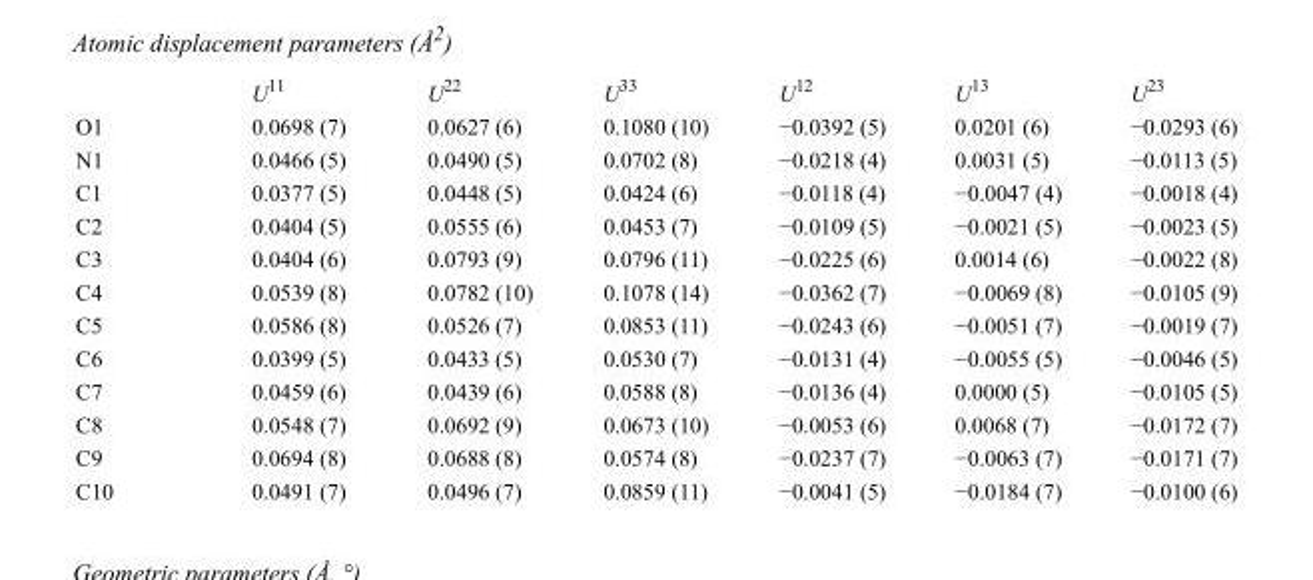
<table><thead><tr><td></td><td>U<sup>11</sup></td><td>U<sup>22</sup></td><td>U<sup>33</sup></td><td>U<sup>12</sup></td><td>U<sup>13</sup></td><td>U<sup>23</sup></td></tr></thead><tbody><tr><td>O1</td><td>0.0698 (7)</td><td>0.0627 (6)</td><td>0.1080 (10)</td><td>−0.0392 (5)</td><td>0.0201 (6)</td><td>−0.0293 (6)</td></tr><tr><td>N1</td><td>0.0466 (5)</td><td>0.0490 (5)</td><td>0.0702 (8)</td><td>−0.0218 (4)</td><td>0.0031 (5)</td><td>−0.0113 (5)</td></tr><tr><td>C1</td><td>0.0377 (5)</td><td>0.0448 (5)</td><td>0.0424 (6)</td><td>−0.0118 (4)</td><td>−0.0047 (4)</td><td>−0.0018 (4)</td></tr><tr><td>C2</td><td>0.0404 (5)</td><td>0.0555 (6)</td><td>0.0453 (7)</td><td>−0.0109 (5)</td><td>−0.0021 (5)</td><td>−0.0023 (5)</td></tr><tr><td>C3</td><td>0.0404 (6)</td><td>0.0793 (9)</td><td>0.0796 (11)</td><td>−0.0225 (6)</td><td>0.0014 (6)</td><td>−0.0022 (8)</td></tr><tr><td>C4</td><td>0.0539 (8)</td><td>0.0782 (10)</td><td>0.1078 (14)</td><td>−0.0362 (7)</td><td>−0.0069 (8)</td><td>−0.0105 (9)</td></tr><tr><td>C5</td><td>0.0586 (8)</td><td>0.0526 (7)</td><td>0.0853 (11)</td><td>−0.0243 (6)</td><td>−0.0051 (7)</td><td>−0.0019 (7)</td></tr><tr><td>C6</td><td>0.0399 (5)</td><td>0.0433 (5)</td><td>0.0530 (7)</td><td>−0.0131 (4)</td><td>−0.0055 (5)</td><td>−0.0046 (5)</td></tr><tr><td>C7</td><td>0.0459 (6)</td><td>0.0439 (6)</td><td>0.0588 (8)</td><td>−0.0136 (4)</td><td>0.0000 (5)</td><td>−0.0105 (5)</td></tr><tr><td>C8</td><td>0.0548 (7)</td><td>0.0692 (9)</td><td>0.0673 (10)</td><td>−0.0053 (6)</td><td>0.0068 (7)</td><td>−0.0172 (7)</td></tr><tr><td>C9</td><td>0.0694 (8)</td><td>0.0688 (8)</td><td>0.0574 (8)</td><td>−0.0237 (7)</td><td>−0.0063 (7)</td><td>−0.0171 (7)</td></tr><tr><td>C10</td><td>0.0491 (7)</td><td>0.0496 (7)</td><td>0.0859 (11)</td><td>−0.0041 (5)</td><td>−0.0184 (7)</td><td>−0.0100 (6)</td></tr></tbody></table>